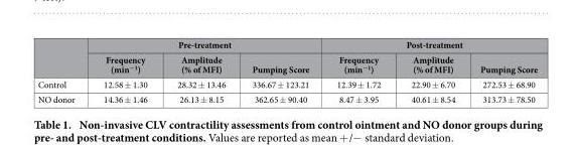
<table><thead><tr><td rowspan="2"></td><td colspan="3">Pre-treatment</td><td colspan="3">Post-treatment</td></tr><tr><td>Frequency (min<sup>−1</sup>)</td><td>Amplitude (% of MFI)</td><td>Pumping Score</td><td>Frequency (min<sup>−1</sup>)</td><td>Amplitude (% of MFI)</td><td>Pumping Score</td></tr></thead><tbody><tr><td>Control</td><td>12.58 ± 1.30</td><td>28.32 ± 13.46</td><td>336.67 ± 123.21</td><td>12.39 ± 1.72</td><td>22.90 ± 6.70</td><td>272.53 ± 68.90</td></tr><tr><td>NO donor</td><td>14.36 ± 1.46</td><td>26.13 ± 8.15</td><td>362.65 ± 90.40</td><td>8.47 ± 3.95</td><td>40.61 ± 8.54</td><td>313.73 ± 78.50</td></tr></tbody></table>